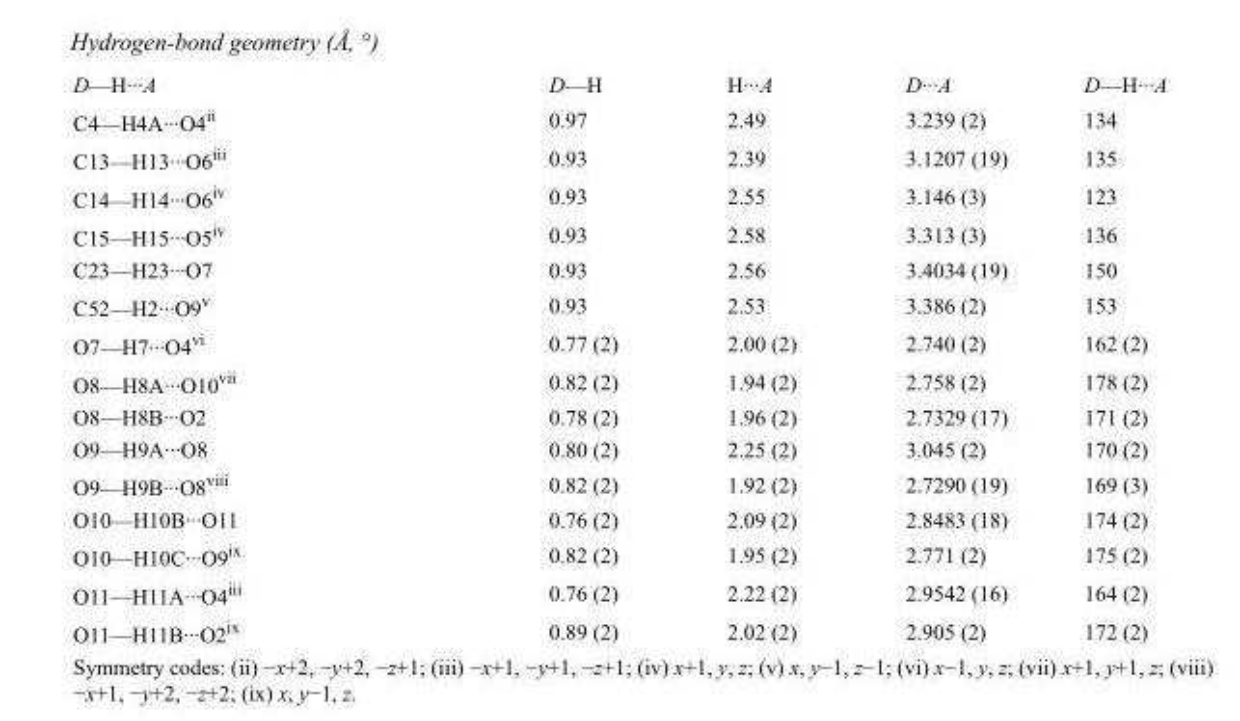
<table><tbody><tr><td>D—H···A</td><td>D—H</td><td>H···A</td><td>D···A</td><td>D—H···A</td></tr><tr><td>C4—H4A···O4<sup>ii</sup></td><td>0.97</td><td>2.49</td><td>3.239 (2)</td><td>134</td></tr><tr><td>C13—H13···O6<sup>iii</sup></td><td>0.93</td><td>2.39</td><td>3.1207 (19)</td><td>135</td></tr><tr><td>C14—H14···O6<sup>iv</sup></td><td>0.93</td><td>2.55</td><td>3.146 (3)</td><td>123</td></tr><tr><td>C15—H15···O5<sup>iv</sup></td><td>0.93</td><td>2.58</td><td>3.313 (3)</td><td>136</td></tr><tr><td>C23—H23···O7</td><td>0.93</td><td>2.56</td><td>3.4034 (19)</td><td>150</td></tr><tr><td>C52—H2···O9<sup>v</sup></td><td>0.93</td><td>2.53</td><td>3.386 (2)</td><td>153</td></tr><tr><td>O7—H7···O4<sup>vi</sup></td><td>0.77 (2)</td><td>2.00 (2)</td><td>2.740 (2)</td><td>162 (2)</td></tr><tr><td>O8—H8A···O10<sup>vii</sup></td><td>0.82 (2)</td><td>1.94 (2)</td><td>2.758 (2)</td><td>178 (2)</td></tr><tr><td>O8—H8B···O2</td><td>0.78 (2)</td><td>1.96 (2)</td><td>2.7329 (17)</td><td>171 (2)</td></tr><tr><td>O9—H9A···O8</td><td>0.80 (2)</td><td>2.25 (2)</td><td>3.045 (2)</td><td>170 (2)</td></tr><tr><td>O9—H9B···O8<sup>viii</sup></td><td>0.82 (2)</td><td>1.92 (2)</td><td>2.7290 (19)</td><td>169 (3)</td></tr><tr><td>O10—H10B···O11</td><td>0.76 (2)</td><td>2.09 (2)</td><td>2.8483 (18)</td><td>174 (2)</td></tr><tr><td>O10—H10C···O9<sup>ix</sup></td><td>0.82 (2)</td><td>1.95 (2)</td><td>2.771 (2)</td><td>175 (2)</td></tr><tr><td>O11—H11A···O4<sup>iii</sup></td><td>0.76 (2)</td><td>2.22 (2)</td><td>2.9542 (16)</td><td>164 (2)</td></tr><tr><td>O11—H11B···O2<sup>ix</sup></td><td>0.89 (2)</td><td>2.02 (2)</td><td>2.905 (2)</td><td>172 (2)</td></tr></tbody></table>